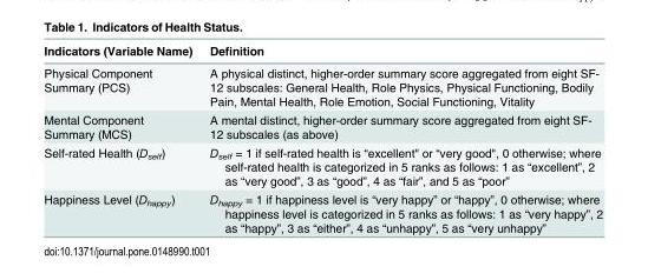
<table><thead><tr><td>Indicators (Variable Name)</td><td>Definition</td></tr></thead><tbody><tr><td>Physical Component Summary (PCS)</td><td>A physical distinct, higher-order summary score aggregated from eight SF- 12 subscales: General Health, Role Physics, Physical Functioning, Bodily Pain, Mental Health, Role Emotion, Social Functioning, Vitality</td></tr><tr><td>Mental Component Summary (MCS)</td><td>A mental distinct, higher-order summary score aggregated from eight SF- 12 subscales (as above)</td></tr><tr><td>Self-rated Health (D<sub>self</sub>)</td><td>D<sub>self</sub> = 1 if self-rated health is “excellent&quot; or “very good&quot;, 0 otherwise; where self-rated health is categorized in 5 ranks as follows: 1 as “excellent”, 2 as “very good”, 3 as “good”, 4 as “fair”, and 5 as “poor”</td></tr><tr><td>Happiness Level (D<sub>happy</sub>)</td><td>D<sub>happy</sub> = 1 if happiness level is “very happy” or “happy”, 0 otherwise; where happiness level is categorized in 5 ranks as follows: 1 as “very happy”, 2 as “happy”, 3 as “either”, 4 as “unhappy”, 5 as “very unhappy”</td></tr></tbody></table>